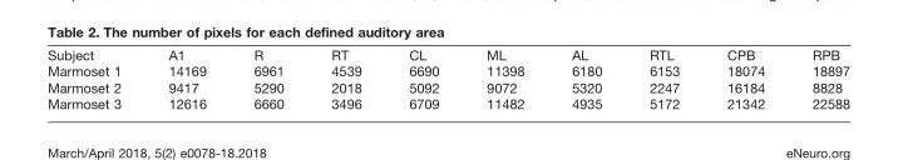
<table><thead><tr><td>Subject</td><td>A1</td><td>R</td><td>RT</td><td>CL</td><td>ML</td><td>AL</td><td>RTL</td><td>CPB</td><td>RPB</td></tr></thead><tbody><tr><td>Marmoset 1</td><td>14169</td><td>6961</td><td>4539</td><td>6690</td><td>11398</td><td>6180</td><td>6153</td><td>18074</td><td>18897</td></tr><tr><td>Marmoset 2</td><td>9417</td><td>5290</td><td>2018</td><td>5092</td><td>9072</td><td>5320</td><td>2247</td><td>16184</td><td>8828</td></tr><tr><td>Marmoset 3</td><td>12616</td><td>6660</td><td>3496</td><td>6709</td><td>11482</td><td>4935</td><td>5172</td><td>21342</td><td>22588</td></tr></tbody></table>